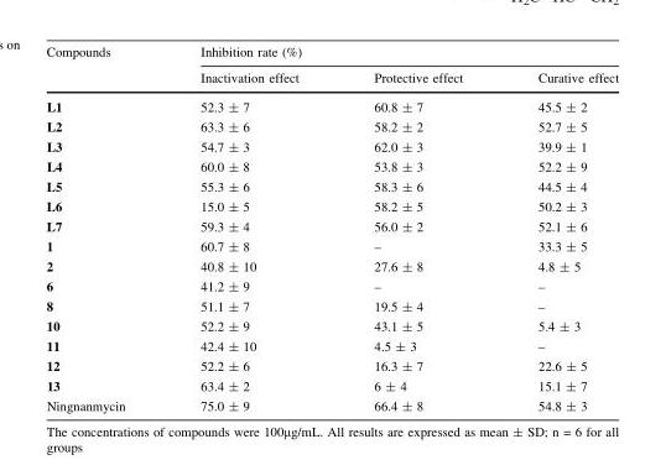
<table><thead><tr><td rowspan="2">Compounds</td><td colspan="3">Inhibition rate (%)</td></tr><tr><td>Inactivation effect</td><td>Protective effect</td><td>Curative effect</td></tr></thead><tbody><tr><td>L1</td><td>52.3 ± 7</td><td>60.8 ± 7</td><td>45.5 ± 2</td></tr><tr><td>L2</td><td>63.3 ± 6</td><td>58.2 ± 2</td><td>52.7 ± 5</td></tr><tr><td>L3</td><td>54.7 ± 3</td><td>62.0 ± 3</td><td>39.9 ± 1</td></tr><tr><td>L4</td><td>60.0 ± 8</td><td>53.8 ± 3</td><td>52.2 ± 9</td></tr><tr><td>L5</td><td>55.3 ± 6</td><td>58.3 ± 6</td><td>44.5 ± 4</td></tr><tr><td>L6</td><td>15.0 ± 5</td><td>58.2 ± 5</td><td>50.2 ± 3</td></tr><tr><td>L7</td><td>59.3 ± 4</td><td>56.0 ± 2</td><td>52.1 ± 6</td></tr><tr><td>1</td><td>60.7 ± 8</td><td>–</td><td>33.3 ± 5</td></tr><tr><td>2</td><td>40.8 ± 10</td><td>27.6 ± 8</td><td>4.8 ± 5</td></tr><tr><td>6</td><td>41.2 ± 9</td><td>–</td><td>–</td></tr><tr><td>8</td><td>51.1 ± 7</td><td>19.5 ± 4</td><td>–</td></tr><tr><td>10</td><td>52.2 ± 9</td><td>43.1 ± 5</td><td>5.4 ± 3</td></tr><tr><td>11</td><td>42.4 ± 10</td><td>4.5 ± 3</td><td>–</td></tr><tr><td>12</td><td>52.2 ± 6</td><td>16.3 ± 7</td><td>22.6 ± 5</td></tr><tr><td>13</td><td>63.4 ± 2</td><td>6 ± 4</td><td>15.1 ± 7</td></tr><tr><td>Ningnanmycin</td><td>75.0 ± 9</td><td>66.4 ± 8</td><td>54.8 ± 3</td></tr></tbody></table>